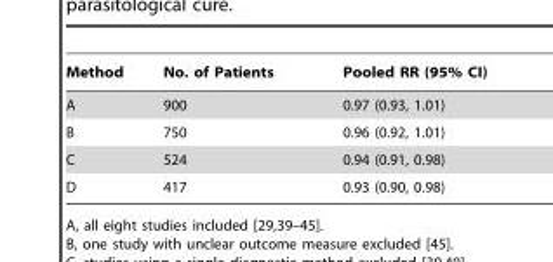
<table><thead><tr><td>Method</td><td>No. of Patients</td><td>Pooled RR (95% CI)</td></tr></thead><tbody><tr><td>A</td><td>900</td><td>0.97 (0.93, 1.01)</td></tr><tr><td>B</td><td>750</td><td>0.96 (0.92, 1.01)</td></tr><tr><td>C</td><td>524</td><td>0.94 (0.91, 0.98)</td></tr><tr><td>D</td><td>417</td><td>0.93 (0.90, 0.98)</td></tr></tbody></table>